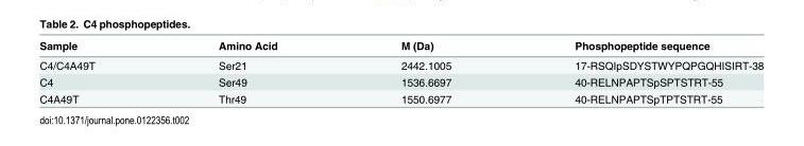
<table><thead><tr><td>Sample</td><td>Amino Acid</td><td>M (Da)</td><td>Phosphopeptide sequence</td></tr></thead><tbody><tr><td>C4/C4A49T</td><td>Ser21</td><td>2442.1005</td><td>17-RSQIpSDYSTWYPQPGQHISIRT-38</td></tr><tr><td>C4</td><td>Ser49</td><td>1536.6697</td><td>40-RELNPAPTSpSPTSTRT-55</td></tr><tr><td>C4A49T</td><td>Thr49</td><td>1550.6977</td><td>40-RELNPAPTSpTPTSTRT-55</td></tr></tbody></table>